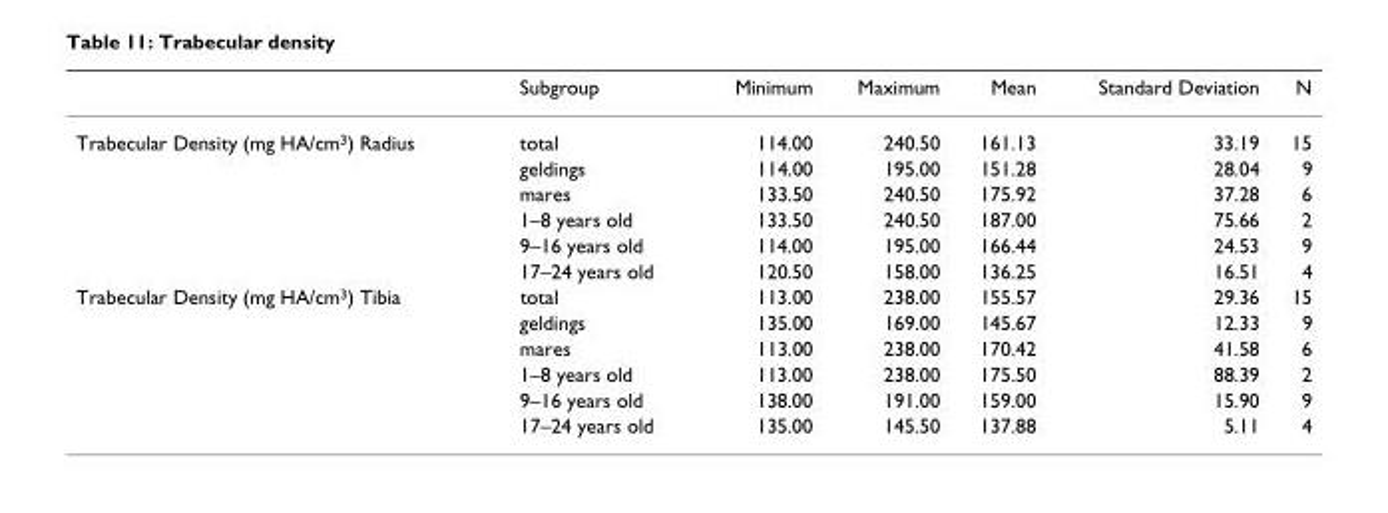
<table><thead><tr><td></td><td>Subgroup</td><td>Minimum</td><td>Maximum</td><td>Mean</td><td>Standard Deviation</td><td>N</td></tr></thead><tbody><tr><td rowspan="6">Trabecular Density (mg HA/cm<sup>3</sup>) Radius</td><td>total</td><td>114.00</td><td>240.50</td><td>161.13</td><td>33.19</td><td>15</td></tr><tr><td>geldings</td><td>114.00</td><td>195.00</td><td>151.28</td><td>28.04</td><td>9</td></tr><tr><td>mares</td><td>133.50</td><td>240.50</td><td>175.92</td><td>37.28</td><td>6</td></tr><tr><td>1–8 years old</td><td>133.50</td><td>240.50</td><td>187.00</td><td>75.66</td><td>2</td></tr><tr><td>9–16 years old</td><td>114.00</td><td>195.00</td><td>166.44</td><td>24.53</td><td>9</td></tr><tr><td>17–24 years old</td><td>120.50</td><td>158.00</td><td>136.25</td><td>16.51</td><td>4</td></tr><tr><td rowspan="6">Trabecular Density (mg HA/cm<sup>3</sup>) Tibia</td><td>total</td><td>113.00</td><td>238.00</td><td>155.57</td><td>29.36</td><td>15</td></tr><tr><td>geldings</td><td>135.00</td><td>169.00</td><td>145.67</td><td>12.33</td><td>9</td></tr><tr><td>mares</td><td>113.00</td><td>238.00</td><td>170.42</td><td>41.58</td><td>6</td></tr><tr><td>1–8 years old</td><td>113.00</td><td>238.00</td><td>175.50</td><td>88.39</td><td>2</td></tr><tr><td>9–16 years old</td><td>138.00</td><td>191.00</td><td>159.00</td><td>15.90</td><td>9</td></tr><tr><td>17–24 years old</td><td>135.00</td><td>145.50</td><td>137.88</td><td>5.11</td><td>4</td></tr></tbody></table>